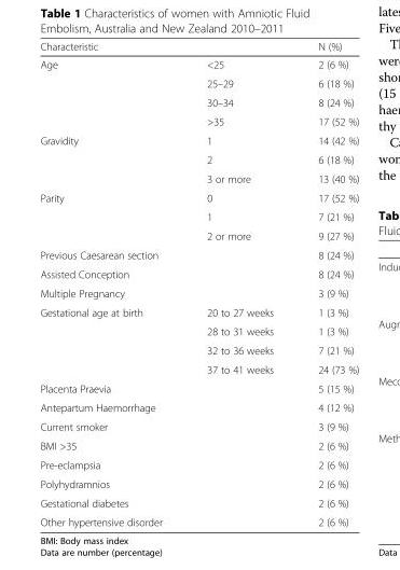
<table><thead><tr><td>Characteristic</td><td></td><td>N (%)</td></tr></thead><tbody><tr><td rowspan="4">Age</td><td>&lt;25</td><td>2 (6 %)</td></tr><tr><td>25–29</td><td>6 (18 %)</td></tr><tr><td>30–34</td><td>8 (24 %)</td></tr><tr><td>&gt;35</td><td>17 (52 %)</td></tr><tr><td rowspan="3">Gravidity</td><td>1</td><td>14 (42 %)</td></tr><tr><td>2</td><td>6 (18 %)</td></tr><tr><td>3 or more</td><td>13 (40 %)</td></tr><tr><td rowspan="3">Parity</td><td>0</td><td>17 (52 %)</td></tr><tr><td>1</td><td>7 (21 %)</td></tr><tr><td>2 or more</td><td>9 (27 %)</td></tr><tr><td>Previous Caesarean section</td><td></td><td>8 (24 %)</td></tr><tr><td>Assisted Conception</td><td></td><td>8 (24 %)</td></tr><tr><td>Multiple Pregnancy</td><td></td><td>3 (9 %)</td></tr><tr><td rowspan="4">Gestational age at birth</td><td>20 to 27 weeks</td><td>1 (3 %)</td></tr><tr><td>28 to 31 weeks</td><td>1 (3 %)</td></tr><tr><td>32 to 36 weeks</td><td>7 (21 %)</td></tr><tr><td>37 to 41 weeks</td><td>24 (73 %)</td></tr><tr><td>Placenta Praevia</td><td></td><td>5 (15 %)</td></tr><tr><td>Antepartum Haemorrhage</td><td></td><td>4 (12 %)</td></tr><tr><td>Current smoker</td><td></td><td>3 (9 %)</td></tr><tr><td>BMI &gt;35</td><td></td><td>2 (6 %)</td></tr><tr><td>Pre-eclampsia</td><td></td><td>2 (6 %)</td></tr><tr><td>Polyhydramnios</td><td></td><td>2 (6 %)</td></tr><tr><td>Gestational diabetes</td><td></td><td>2 (6 %)</td></tr><tr><td>Other hypertensive disorder</td><td></td><td>2 (6 %)</td></tr></tbody></table>